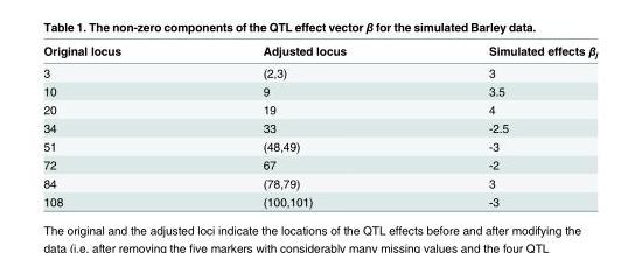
<table><thead><tr><td>Original locus</td><td>Adjusted locus</td><td>Simulated effects β<sub>j</sub></td></tr></thead><tbody><tr><td>3</td><td>(2,3)</td><td>3</td></tr><tr><td>10</td><td>9</td><td>3.5</td></tr><tr><td>20</td><td>19</td><td>4</td></tr><tr><td>34</td><td>33</td><td>-2.5</td></tr><tr><td>51</td><td>(48,49)</td><td>-3</td></tr><tr><td>72</td><td>67</td><td>-2</td></tr><tr><td>84</td><td>(78,79)</td><td>3</td></tr><tr><td>108</td><td>(100,101)</td><td>-3</td></tr></tbody></table>